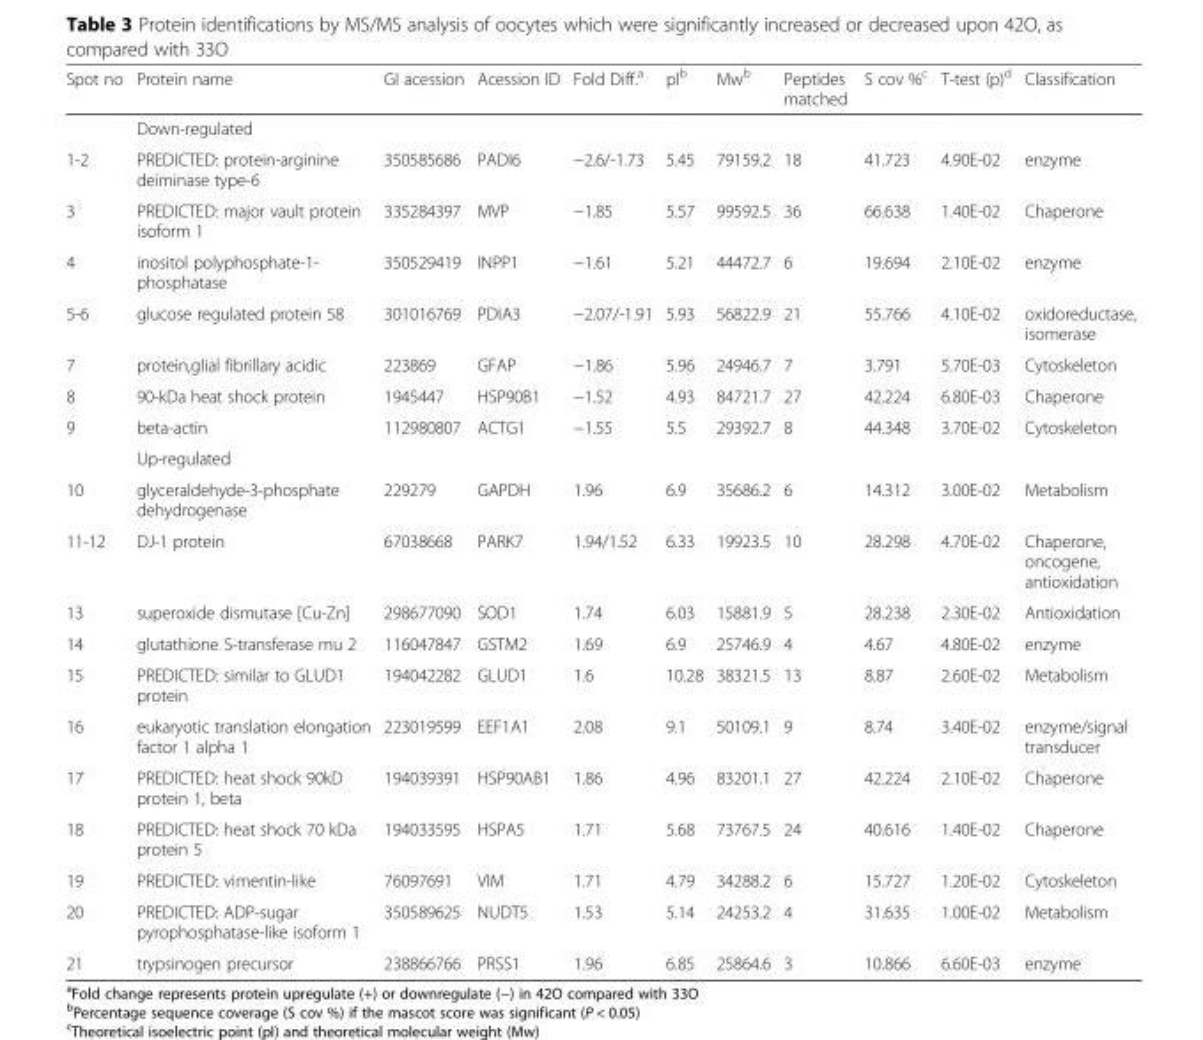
<table><thead><tr><td>Spot no</td><td>Protein name</td><td>GI acession</td><td>Acession ID</td><td>Fold Diff.<sup>a</sup></td><td>pl<sup>b</sup></td><td>Mw<sup>b</sup></td><td>Peptides matched</td><td>S cov %<sup>c</sup></td><td>T-test (p)<sup>d</sup></td><td>Classification</td></tr></thead><tbody><tr><td></td><td>Down-regulated</td><td></td><td></td><td></td><td></td><td></td><td></td><td></td><td></td><td></td></tr><tr><td>1-2</td><td>PREDICTED: protein-arginine deiminase type-6</td><td>350585686</td><td>PADI6</td><td>−2.6/-1.73</td><td>5.45</td><td>79159.2</td><td>18</td><td>41.723</td><td>4.90E-02</td><td>enzyme</td></tr><tr><td>3</td><td>PREDICTED: major vault protein isoform 1</td><td>335284397</td><td>MVP</td><td>−1.85</td><td>5.57</td><td>99592.5</td><td>36</td><td>66.638</td><td>1.40E-02</td><td>Chaperone</td></tr><tr><td>4</td><td>inositol polyphosphate-1- phosphatase</td><td>350529419</td><td>INPP1</td><td>−1.61</td><td>5.21</td><td>44472.7</td><td>6</td><td>19.694</td><td>2.10E-02</td><td>enzyme</td></tr><tr><td>5-6</td><td>glucose regulated protein 58</td><td>301016769</td><td>PDIA3</td><td>−2.07/-1.91</td><td>5.93</td><td>56822.9</td><td>21</td><td>55.766</td><td>4.10E-02</td><td>oxidoreductase, isomerase</td></tr><tr><td>7</td><td>protein,glial fibrillary acidic</td><td>223869</td><td>GFAP</td><td>−1.86</td><td>5.96</td><td>24946.7</td><td>7</td><td>3.791</td><td>5.70E-03</td><td>Cytoskeleton</td></tr><tr><td>8</td><td>90-kDa heat shock protein</td><td>1945447</td><td>HSP90B1</td><td>−1.52</td><td>4.93</td><td>84721.7</td><td>27</td><td>42.224</td><td>6.80E-03</td><td>Chaperone</td></tr><tr><td rowspan="2">9</td><td>beta-actin</td><td>112980807</td><td>ACTG1</td><td>−1.55</td><td>5.5</td><td>29392.7</td><td>8</td><td>44.348</td><td>3.70E-02</td><td>Cytoskeleton</td></tr><tr><td>Up-regulated</td><td></td><td></td><td></td><td></td><td></td><td></td><td></td><td></td><td></td></tr><tr><td>10</td><td>glyceraldehyde-3-phosphate dehydrogenase</td><td>229279</td><td>GAPDH</td><td>1.96</td><td>6.9</td><td>35686.2</td><td>6</td><td>14.312</td><td>3.00E-02</td><td>Metabolism</td></tr><tr><td>11-12</td><td>DJ-1 protein</td><td>67038668</td><td>PARK7</td><td>1.94/1.52</td><td>6.33</td><td>19923.5</td><td>10</td><td>28.298</td><td>4.70E-02</td><td>Chaperone, oncogene, antioxidation</td></tr><tr><td>13</td><td>superoxide dismutase [Cu-Zn]</td><td>298677090</td><td>SOD1</td><td>1.74</td><td>6.03</td><td>15881.9</td><td>5</td><td>28.238</td><td>2.30E-02</td><td>Antioxidation</td></tr><tr><td>14</td><td>glutathione S-transferase mu 2</td><td>116047847</td><td>GSTM2</td><td>1.69</td><td>6.9</td><td>25746.9</td><td>4</td><td>4.67</td><td>4.80E-02</td><td>enzyme</td></tr><tr><td>15</td><td>PREDICTED: similar to GLUD1 protein</td><td>194042282</td><td>GLUD1</td><td>1.6</td><td>10.28</td><td>38321.5</td><td>13</td><td>8.87</td><td>2.60E-02</td><td>Metabolism</td></tr><tr><td>16</td><td>eukaryotic translation elongation factor 1 alpha 1</td><td>223019599</td><td>EEF1A1</td><td>2.08</td><td>9.1</td><td>50109.1</td><td>9</td><td>8.74</td><td>3.40E-02</td><td>enzyme/signal transducer</td></tr><tr><td>17</td><td>PREDICTED: heat shock 90kD protein 1, beta</td><td>194039391</td><td>HSP90AB1</td><td>1.86</td><td>4.96</td><td>83201.1</td><td>27</td><td>42.224</td><td>2.10E-02</td><td>Chaperone</td></tr><tr><td>18</td><td>PREDICTED: heat shock 70 kDa protein 5</td><td>194033595</td><td>HSPA5</td><td>1.71</td><td>5.68</td><td>73767.5</td><td>24</td><td>40.616</td><td>1.40E-02</td><td>Chaperone</td></tr><tr><td>19</td><td>PREDICTED: vimentin-like</td><td>76097691</td><td>VIM</td><td>1.71</td><td>4.79</td><td>34288.2</td><td>6</td><td>15.727</td><td>1.20E-02</td><td>Cytoskeleton</td></tr><tr><td>20</td><td>PREDICTED: ADP-sugar pyrophosphatase-like isoform 1</td><td>350589625</td><td>NUDT5</td><td>1.53</td><td>5.14</td><td>24253.2</td><td>4</td><td>31.635</td><td>1.00E-02</td><td>Metabolism</td></tr><tr><td>21</td><td>trypsinogen precursor</td><td>238866766</td><td>PRSS1</td><td>1.96</td><td>6.85</td><td>25864.6</td><td>3</td><td>10.866</td><td>6.60E-03</td><td>enzyme</td></tr></tbody></table>